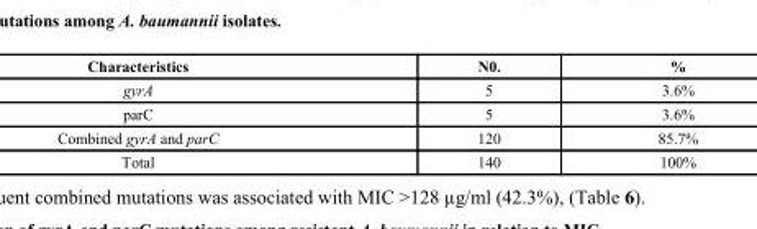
<table><thead><tr><td>Characteristics</td><td>N0.</td><td>%</td></tr></thead><tbody><tr><td>gyrA</td><td>5</td><td>3.6%</td></tr><tr><td>parC</td><td>5</td><td>3.6%</td></tr><tr><td>Combined gyrA and parC</td><td>120</td><td>85.7%</td></tr><tr><td>Total</td><td>140</td><td>100%</td></tr></tbody></table>